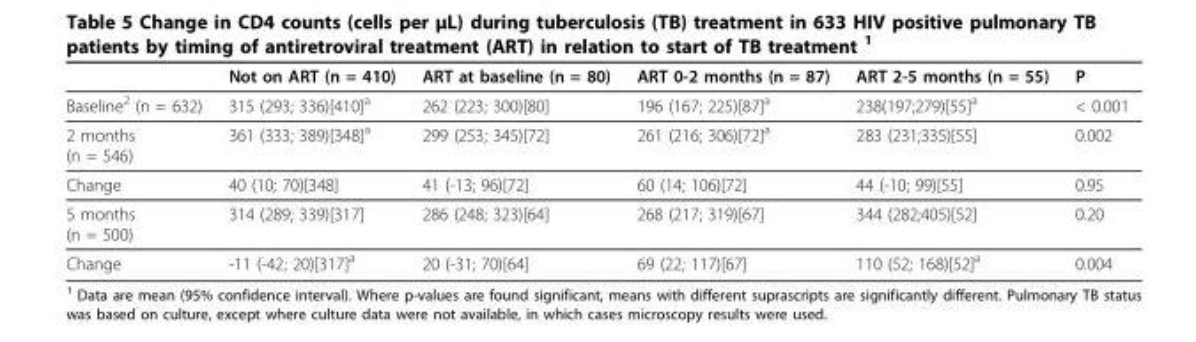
<table><thead><tr><td></td><td>Not on ART (n = 410)</td><td>ART at baseline (n = 80)</td><td>ART 0-2 months (n = 87)</td><td>ART 2-5 months (n = 55)</td><td>P</td></tr></thead><tbody><tr><td>Baseline<sup>2</sup> (n = 632)</td><td>315 (293; 336)[410]<sup>a</sup></td><td>262 (223; 300)[80]</td><td>196 (167; 225)[87]<sup>a</sup></td><td>238(197;279)[55]<sup>a</sup></td><td>&lt; 0.001</td></tr><tr><td>2 months (n = 546)</td><td>361 (333; 389)[348]<sup>a</sup></td><td>299 (253; 345)[72]</td><td>261 (216; 306)[72]<sup>a</sup></td><td>283 (231;335)[55]</td><td>0.002</td></tr><tr><td>Change</td><td>40 (10; 70)[348]</td><td>41 (-13; 96)[72]</td><td>60 (14; 106)[72]</td><td>44 (-10; 99)[55]</td><td>0.95</td></tr><tr><td>5 months (n = 500)</td><td>314 (289; 339)[317]</td><td>286 (248; 323)[64]</td><td>268 (217; 319)[67]</td><td>344 (282;405)[52]</td><td>0.20</td></tr><tr><td>Change</td><td>-11 (-42; 20)[317]<sup>a</sup></td><td>20 (-31; 70)[64]</td><td>69 (22; 117)[67]</td><td>110 (52; 168)[52]<sup>a</sup></td><td>0.004</td></tr></tbody></table>